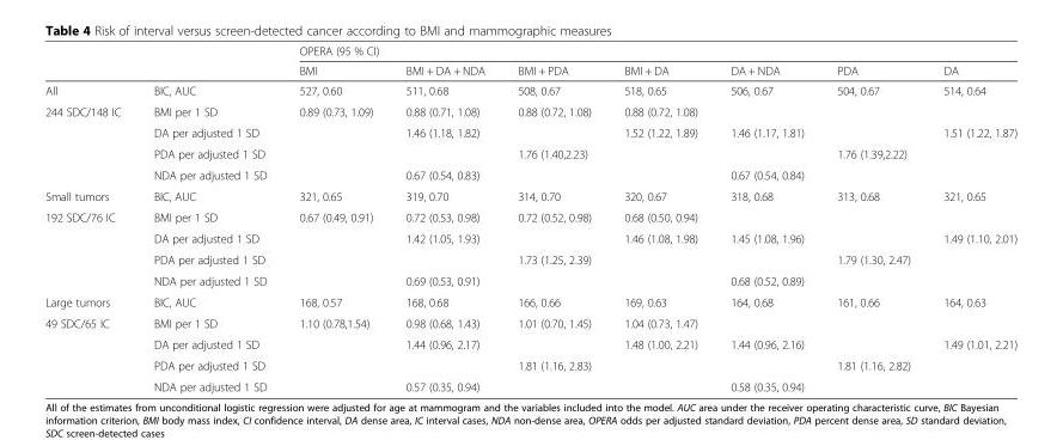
<table><thead><tr><td rowspan="2"></td><td rowspan="2"></td><td colspan="7">OPERA (95 % CI)</td></tr><tr><td>BMI</td><td>BMI + DA + NDA</td><td>BMI + PDA</td><td>BMI + DA</td><td>DA + NDA</td><td>PDA</td><td>DA</td></tr></thead><tbody><tr><td>All</td><td>BIC, AUC</td><td>527, 0.60</td><td>511, 0.68</td><td>508, 0.67</td><td>518, 0.65</td><td>506, 0.67</td><td>504, 0.67</td><td>514, 0.64</td></tr><tr><td rowspan="4">244 SDC/148 IC</td><td>BMI per 1 SD</td><td>0.89 (0.73, 1.09)</td><td>0.88 (0.71, 1.08)</td><td>0.88 (0.72, 1.08)</td><td>0.88 (0.72, 1.08)</td><td></td><td></td><td></td></tr><tr><td>DA per adjusted 1 SD</td><td></td><td>1.46 (1.18, 1.82)</td><td></td><td>1.52 (1.22, 1.89)</td><td>1.46 (1.17, 1.81)</td><td></td><td>1.51 (1.22, 1.87)</td></tr><tr><td>PDA per adjusted 1 SD</td><td></td><td></td><td>1.76 (1.40,2.23)</td><td></td><td></td><td>1.76 (1.39,2.22)</td><td></td></tr><tr><td>NDA per adjusted 1 SD</td><td></td><td>0.67 (0.54, 0.83)</td><td></td><td></td><td>0.67 (0.54, 0.84)</td><td></td><td></td></tr><tr><td>Small tumors</td><td>BIC, AUC</td><td>321, 0.65</td><td>319, 0.70</td><td>314, 0.70</td><td>320, 0.67</td><td>318, 0.68</td><td>313, 0.68</td><td>321, 0.65</td></tr><tr><td rowspan="4">192 SDC/76 IC</td><td>BMI per 1 SD</td><td>0.67 (0.49, 0.91)</td><td>0.72 (0.53, 0.98)</td><td>0.72 (0.52, 0.98)</td><td>0.68 (0.50, 0.94)</td><td></td><td></td><td></td></tr><tr><td>DA per adjusted 1 SD</td><td></td><td>1.42 (1.05, 1.93)</td><td></td><td>1.46 (1.08, 1.98)</td><td>1.45 (1.08, 1.96)</td><td></td><td>1.49 (1.10, 2.01)</td></tr><tr><td>PDA per adjusted 1 SD</td><td></td><td></td><td>1.73 (1.25, 2.39)</td><td></td><td></td><td>1.79 (1.30, 2.47)</td><td></td></tr><tr><td>NDA per adjusted 1 SD</td><td></td><td>0.69 (0.53, 0.91)</td><td></td><td></td><td>0.68 (0.52, 0.89)</td><td></td><td></td></tr><tr><td>Large tumors</td><td>BIC, AUC</td><td>168, 0.57</td><td>168, 0.68</td><td>166, 0.66</td><td>169, 0.63</td><td>164, 0.68</td><td>161, 0.66</td><td>164, 0.63</td></tr><tr><td rowspan="4">49 SDC/65 IC</td><td>BMI per 1 SD</td><td>1.10 (0.78,1.54)</td><td>0.98 (0.68, 1.43)</td><td>1.01 (0.70, 1.45)</td><td>1.04 (0.73, 1.47)</td><td></td><td></td><td></td></tr><tr><td>DA per adjusted 1 SD</td><td></td><td>1.44 (0.96, 2.17)</td><td></td><td>1.48 (1.00, 2.21)</td><td>1.44 (0.96, 2.16)</td><td></td><td>1.49 (1.01, 2.21)</td></tr><tr><td>PDA per adjusted 1 SD</td><td></td><td></td><td>1.81 (1.16, 2.83)</td><td></td><td></td><td>1.81 (1.16, 2.82)</td><td></td></tr><tr><td>NDA per adjusted 1 SD</td><td></td><td>0.57 (0.35, 0.94)</td><td></td><td></td><td>0.58 (0.35, 0.94)</td><td></td><td></td></tr></tbody></table>